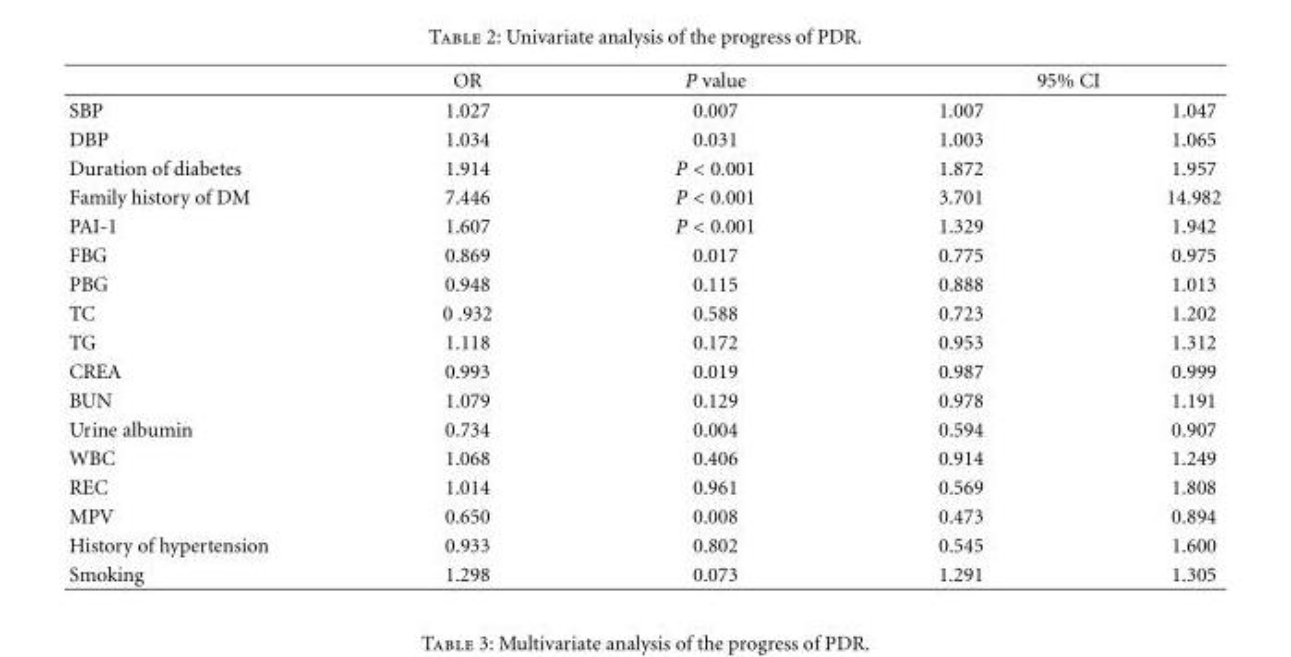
<table><thead><tr><td rowspan="2">SBP</td><td rowspan="2">OR 1.027</td><td rowspan="2">P value 0.007</td><td colspan="2">95% CI</td></tr><tr><td>1.007</td><td>1.047</td></tr></thead><tbody><tr><td>DBP</td><td>1.034</td><td>0.031</td><td>1.003</td><td>1.065</td></tr><tr><td>Duration of diabetes</td><td>1.914</td><td>P &lt; 0.001</td><td>1.872</td><td>1.957</td></tr><tr><td>Family history of DM</td><td>7.446</td><td>P &lt; 0.001</td><td>3.701</td><td>14.982</td></tr><tr><td>PAI-1</td><td>1.607</td><td>P &lt; 0.001</td><td>1.329</td><td>1.942</td></tr><tr><td>FBG</td><td>0.869</td><td>0.017</td><td>0.775</td><td>0.975</td></tr><tr><td>PBG</td><td>0.948</td><td>0.115</td><td>0.888</td><td>1.013</td></tr><tr><td>TC</td><td>0 .932</td><td>0.588</td><td>0.723</td><td>1.202</td></tr><tr><td>TG</td><td>1.118</td><td>0.172</td><td>0.953</td><td>1.312</td></tr><tr><td>CREA</td><td>0.993</td><td>0.019</td><td>0.987</td><td>0.999</td></tr><tr><td>BUN</td><td>1.079</td><td>0.129</td><td>0.978</td><td>1.191</td></tr><tr><td>Urine albumin</td><td>0.734</td><td>0.004</td><td>0.594</td><td>0.907</td></tr><tr><td>WBC</td><td>1.068</td><td>0.406</td><td>0.914</td><td>1.249</td></tr><tr><td>REC</td><td>1.014</td><td>0.961</td><td>0.569</td><td>1.808</td></tr><tr><td>MPV</td><td>0.650</td><td>0.008</td><td>0.473</td><td>0.894</td></tr><tr><td>History of hypertension</td><td>0.933</td><td>0.802</td><td>0.545</td><td>1.600</td></tr><tr><td>Smoking</td><td>1.298</td><td>0.073</td><td>1.291</td><td>1.305</td></tr></tbody></table>